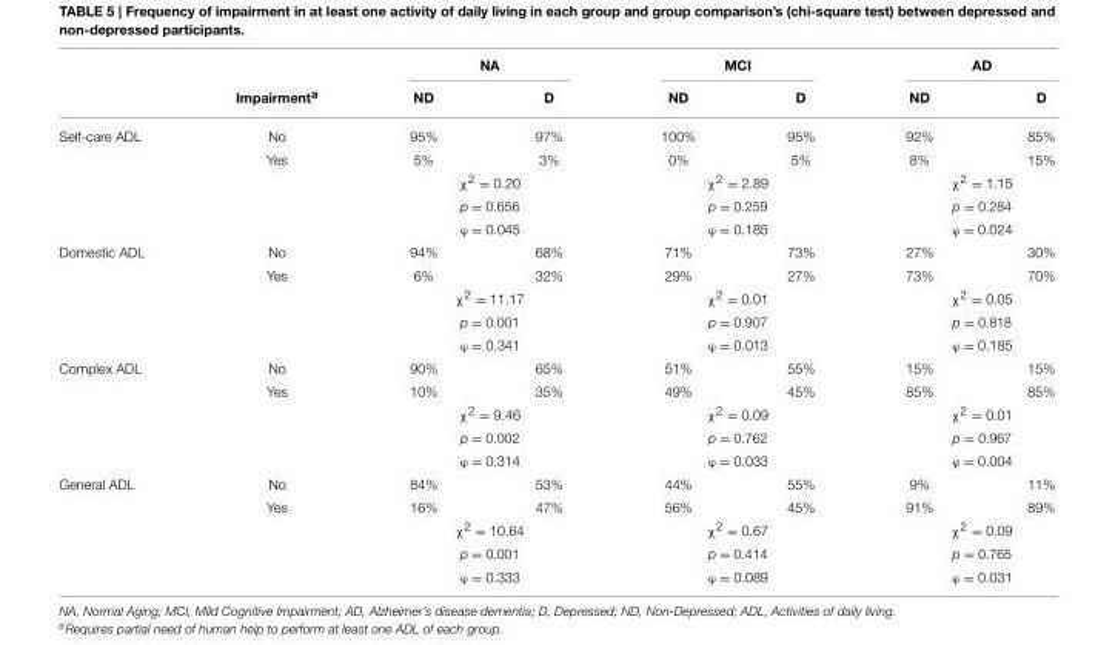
<table><thead><tr><td rowspan="2"></td><td rowspan="2">Impairment<sup>a</sup></td><td colspan="2">NA</td><td colspan="2">MCI</td><td colspan="2">AD</td></tr><tr><td>ND</td><td>D</td><td>ND</td><td>D</td><td>ND</td><td>D</td></tr></thead><tbody><tr><td rowspan="5">Self-care ADL</td><td>No</td><td>95%</td><td>97%</td><td>100%</td><td>95%</td><td>92%</td><td>85%</td></tr><tr><td>Yes</td><td>5%</td><td>3%</td><td>0%</td><td>5%</td><td>8%</td><td>15%</td></tr><tr><td></td><td colspan="2">χ<sup>2</sup> = 0.20</td><td colspan="2">χ<sup>2</sup> = 2.89</td><td colspan="2">χ<sup>2</sup> = 1.15</td></tr><tr><td></td><td colspan="2">p = 0.656</td><td colspan="2">p = 0.259</td><td colspan="2">p = 0.284</td></tr><tr><td></td><td colspan="2">ϕ = 0.045</td><td colspan="2">ϕ = 0.185</td><td colspan="2">ϕ = 0.024</td></tr><tr><td rowspan="5">Domestic ADL</td><td>No</td><td>94%</td><td>68%</td><td>71%</td><td>73%</td><td>27%</td><td>30%</td></tr><tr><td>Yes</td><td>6%</td><td>32%</td><td>29%</td><td>27%</td><td>73%</td><td>70%</td></tr><tr><td></td><td colspan="2">χ<sup>2</sup> = 11.17</td><td colspan="2">χ<sup>2</sup> = 0.01</td><td colspan="2">χ<sup>2</sup> = 0.05</td></tr><tr><td></td><td colspan="2">p = 0.001</td><td colspan="2">p = 0.907</td><td colspan="2">p = 0.818</td></tr><tr><td></td><td colspan="2">ϕ = 0.341</td><td colspan="2">ϕ = 0.013</td><td colspan="2">ϕ = 0.185</td></tr><tr><td rowspan="5">Complex ADL</td><td>No</td><td>90%</td><td>65%</td><td>51%</td><td>55%</td><td>15%</td><td>15%</td></tr><tr><td>Yes</td><td>10%</td><td>35%</td><td>49%</td><td>45%</td><td>85%</td><td>85%</td></tr><tr><td></td><td colspan="2">χ<sup>2</sup> = 9.46</td><td colspan="2">χ<sup>2</sup> = 0.09</td><td colspan="2">χ<sup>2</sup> = 0.01</td></tr><tr><td></td><td colspan="2">p = 0.002</td><td colspan="2">p = 0.762</td><td colspan="2">p = 0.967</td></tr><tr><td></td><td colspan="2">ϕ = 0.314</td><td colspan="2">ϕ = 0.033</td><td colspan="2">ϕ = 0.004</td></tr><tr><td rowspan="5">General ADL</td><td>No</td><td>84%</td><td>53%</td><td>44%</td><td>55%</td><td>9%</td><td>11%</td></tr><tr><td>Yes</td><td>16%</td><td>47%</td><td>56%</td><td>45%</td><td>91%</td><td>89%</td></tr><tr><td></td><td colspan="2">χ<sup>2</sup> = 10.64</td><td colspan="2">χ<sup>2</sup> = 0.67</td><td colspan="2">χ<sup>2</sup> = 0.09</td></tr><tr><td></td><td colspan="2">p = 0.001</td><td colspan="2">p = 0.414</td><td colspan="2">p = 0.765</td></tr><tr><td></td><td colspan="2">ϕ = 0.333</td><td colspan="2">ϕ = 0.089</td><td colspan="2">ϕ = 0.031</td></tr></tbody></table>